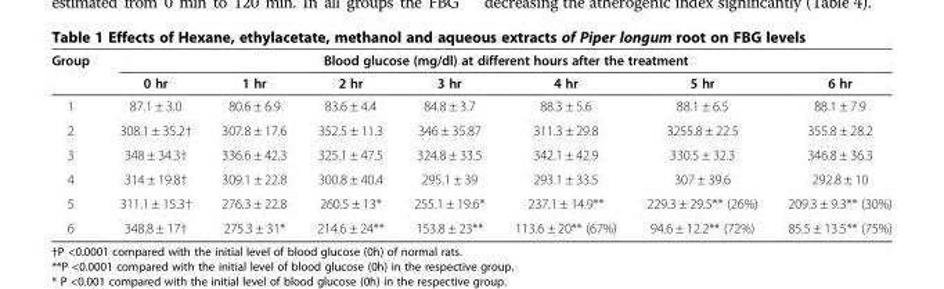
<table><thead><tr><td rowspan="2">Group</td><td colspan="7">Blood glucose (mg/dl) at different hours after the treatment</td></tr><tr><td>0 hr</td><td>1 hr</td><td>2 hr</td><td>3 hr</td><td>4 hr</td><td>5 hr</td><td>6 hr</td></tr></thead><tbody><tr><td>1</td><td>87.1 ± 3.0</td><td>80.6 ± 6.9</td><td>83.6 ± 4.4</td><td>84.8 ± 3.7</td><td>88.3 ± 5.6</td><td>88.1 ± 6.5</td><td>88.1 ± 7.9</td></tr><tr><td>2</td><td>308.1 ± 35.2†</td><td>307.8 ± 17.6</td><td>352.5 ± 11.3</td><td>346 ± 35.87</td><td>311.3 ± 29.8</td><td>3255.8 ± 22.5</td><td>355.8 ± 28.2</td></tr><tr><td>3</td><td>348 ± 34.3†</td><td>336.6 ± 42.3</td><td>325.1 ± 47.5</td><td>324.8 ± 33.5</td><td>342.1 ± 42.9</td><td>330.5 ± 32.3</td><td>346.8 ± 36.3</td></tr><tr><td>4</td><td>314 ± 19.8†</td><td>309.1 ± 22.8</td><td>300.8 ± 40.4</td><td>295.1 ± 39</td><td>293.1 ± 33.5</td><td>307 ± 39.6</td><td>292.8 ± 10</td></tr><tr><td>5</td><td>311.1 ± 15.3†</td><td>276.3 ± 22.8</td><td>260.5 ± 13*</td><td>255.1 ± 19.6*</td><td>237.1 ± 14.9**</td><td>229.3 ± 29.5** (26%)</td><td>209.3 ± 9.3** (30%)</td></tr><tr><td>6</td><td>348.8 ± 17†</td><td>275.3 ± 31*</td><td>214.6 ± 24**</td><td>153.8 ± 23**</td><td>113.6 ± 20** (67%)</td><td>94.6 ± 12.2** (72%)</td><td>85.5 ± 13.5** (75%)</td></tr></tbody></table>